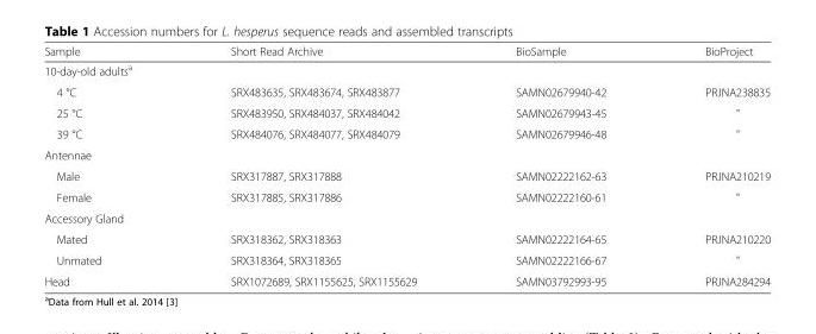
<table><thead><tr><td>Sample</td><td>Short Read Archive</td><td>BioSample</td><td>BioProject</td></tr></thead><tbody><tr><td colspan="4">10-day-old adults<sup>a</sup></td></tr><tr><td>4 °C</td><td>SRX483635, SRX483674, SRX483877</td><td>SAMN02679940-42</td><td>PRJNA238835</td></tr><tr><td>25 °C</td><td>SRX483950, SRX484037, SRX484042</td><td>SAMN02679943-45</td><td>&quot;</td></tr><tr><td>39 °C</td><td>SRX484076, SRX484077, SRX484079</td><td>SAMN02679946-48</td><td>&quot;</td></tr><tr><td colspan="4">Antennae</td></tr><tr><td>Male</td><td>SRX317887, SRX317888</td><td>SAMN02222162-63</td><td>PRJNA210219</td></tr><tr><td>Female</td><td>SRX317885, SRX317886</td><td>SAMN02222160-61</td><td>&quot;</td></tr><tr><td colspan="4">Accessory Gland</td></tr><tr><td>Mated</td><td>SRX318362, SRX318363</td><td>SAMN02222164-65</td><td>PRJNA210220</td></tr><tr><td>Unmated</td><td>SRX318364, SRX318365</td><td>SAMN02222166-67</td><td>&quot;</td></tr><tr><td>Head</td><td>SRX1072689, SRX1155625, SRX1155629</td><td>SAMN03792993-95</td><td>PRJNA284294</td></tr></tbody></table>